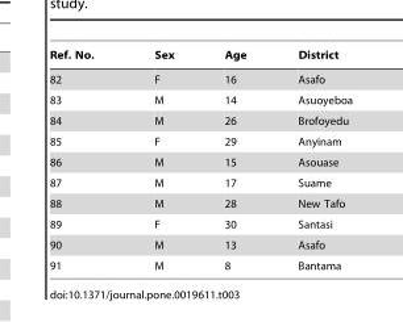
<table><thead><tr><td>Ref. No.</td><td>Sex</td><td>Age</td><td>District</td></tr></thead><tbody><tr><td>82</td><td>F</td><td>16</td><td>Asafo</td></tr><tr><td>83</td><td>M</td><td>14</td><td>Asuoyeboa</td></tr><tr><td>84</td><td>M</td><td>26</td><td>Brofoyedu</td></tr><tr><td>85</td><td>F</td><td>29</td><td>Anyinam</td></tr><tr><td>86</td><td>M</td><td>15</td><td>Asouase</td></tr><tr><td>87</td><td>M</td><td>17</td><td>Suame</td></tr><tr><td>88</td><td>M</td><td>28</td><td>New Tafo</td></tr><tr><td>89</td><td>F</td><td>30</td><td>Santasi</td></tr><tr><td>90</td><td>M</td><td>13</td><td>Asafo</td></tr><tr><td>91</td><td>M</td><td>8</td><td>Bantama</td></tr></tbody></table>